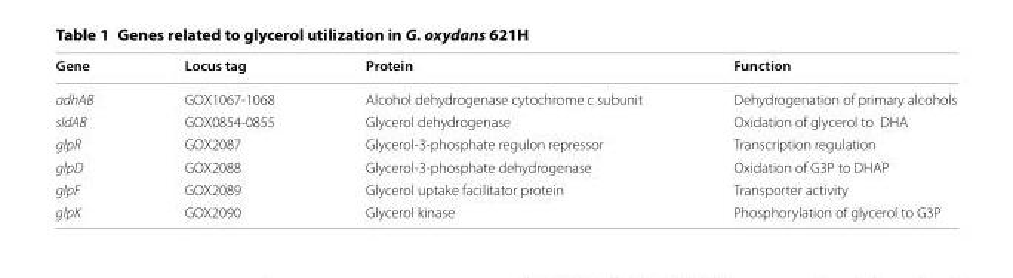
<table><thead><tr><td>Gene</td><td>Locus tag</td><td>Protein</td><td>Function</td></tr></thead><tbody><tr><td>adhAB</td><td>GOX1067-1068</td><td>Alcohol dehydrogenase cytochrome c subunit</td><td>Dehydrogenation of primary alcohols</td></tr><tr><td>sldAB</td><td>GOX0854-0855</td><td>Glycerol dehydrogenase</td><td>Oxidation of glycerol to DHA</td></tr><tr><td>glpR</td><td>GOX2087</td><td>Glycerol-3-phosphate regulon repressor</td><td>Transcription regulation</td></tr><tr><td>glpD</td><td>GOX2088</td><td>Glycerol-3-phosphate dehydrogenase</td><td>Oxidation of G3P to DHAP</td></tr><tr><td>glpF</td><td>GOX2089</td><td>Glycerol uptake facilitator protein</td><td>Transporter activity</td></tr><tr><td>glpK</td><td>GOX2090</td><td>Glycerol kinase</td><td>Phosphorylation of glycerol to G3P</td></tr></tbody></table>